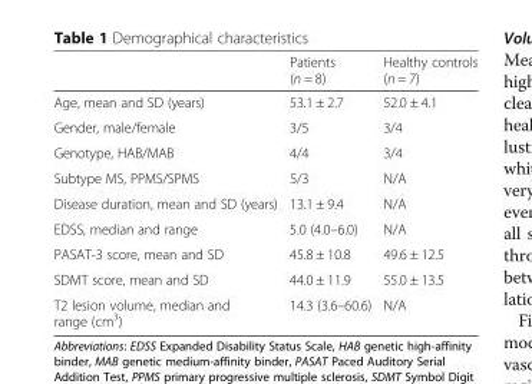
<table><thead><tr><td></td><td>Patients (n = 8)</td><td>Healthy controls (n = 7)</td></tr></thead><tbody><tr><td>Age, mean and SD (years)</td><td>53.1 ± 2.7</td><td>52.0 ± 4.1</td></tr><tr><td>Gender, male/female</td><td>3/5</td><td>3/4</td></tr><tr><td>Genotype, HAB/MAB</td><td>4/4</td><td>3/4</td></tr><tr><td>Subtype MS, PPMS/SPMS</td><td>5/3</td><td>N/A</td></tr><tr><td>Disease duration, mean and SD (years)</td><td>13.1 ± 9.4</td><td>N/A</td></tr><tr><td>EDSS, median and range</td><td>5.0 (4.0–6.0)</td><td>N/A</td></tr><tr><td>PASAT-3 score, mean and SD</td><td>45.8 ± 10.8</td><td>49.6 ± 12.5</td></tr><tr><td>SDMT score, mean and SD</td><td>44.0 ± 11.9</td><td>55.0 ± 13.5</td></tr><tr><td>T2 lesion volume, median and range (cm<sup>3</sup>)</td><td>14.3 (3.6–60.6)</td><td>N/A</td></tr></tbody></table>